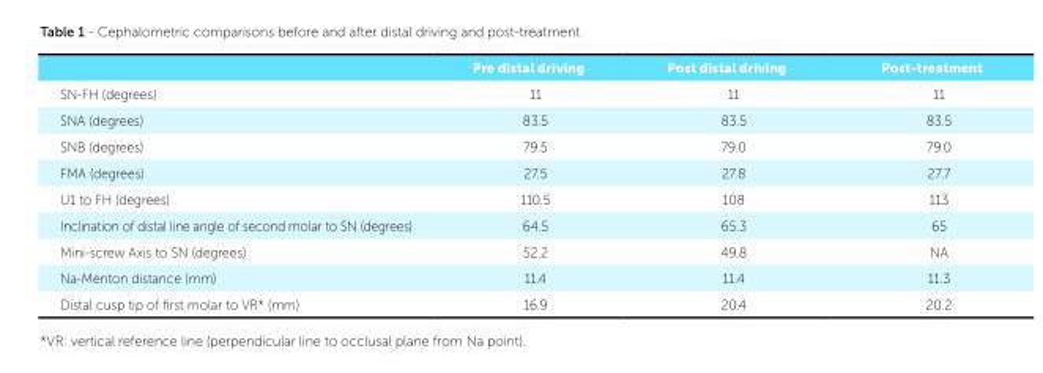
<table><thead><tr><td></td><td>Pre distal driving</td><td>Post distal driving</td><td>Post-treatment</td></tr></thead><tbody><tr><td>SN-FH (degrees)</td><td>11</td><td>11</td><td>11</td></tr><tr><td>SNA (degrees)</td><td>83.5</td><td>83.5</td><td>83.5</td></tr><tr><td>SNB (degrees)</td><td>79.5</td><td>79.0</td><td>79.0</td></tr><tr><td>FMA (degrees)</td><td>27.5</td><td>27.8</td><td>27.7</td></tr><tr><td>U1 to FH (degrees)</td><td>110.5</td><td>108</td><td>113</td></tr><tr><td>Inclination of distal line angle of second molar to SN (degrees)</td><td>64.5</td><td>65.3</td><td>65</td></tr><tr><td>Mini-screw Axis to SN (degrees)</td><td>52.2</td><td>49.8</td><td>NA</td></tr><tr><td>Na-Menton distance (mm)</td><td>11.4</td><td>11.4</td><td>11.3</td></tr><tr><td>Distal cusp tip of first molar to VR* (mm)</td><td>16.9</td><td>20.4</td><td>20.2</td></tr></tbody></table>